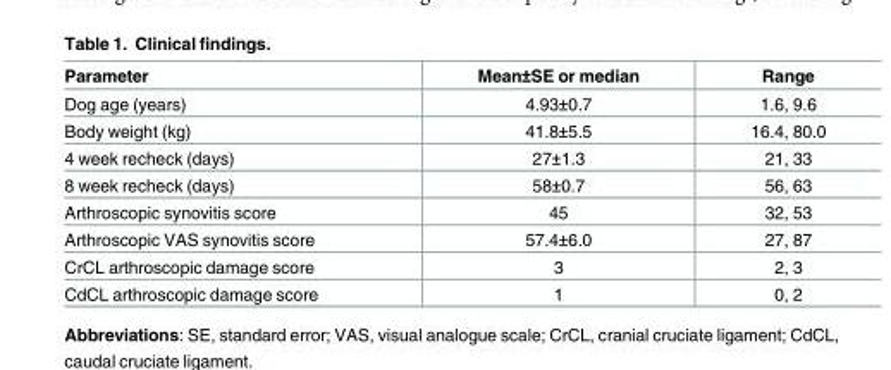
<table><thead><tr><td>Parameter</td><td>Mean±SE or median</td><td>Range</td></tr></thead><tbody><tr><td>Dog age (years)</td><td>4.93±0.7</td><td>1.6, 9.6</td></tr><tr><td>Body weight (kg)</td><td>41.8±5.5</td><td>16.4, 80.0</td></tr><tr><td>4 week recheck (days)</td><td>27±1.3</td><td>21, 33</td></tr><tr><td>8 week recheck (days)</td><td>58±0.7</td><td>56, 63</td></tr><tr><td>Arthroscopic synovitis score</td><td>45</td><td>32, 53</td></tr><tr><td>Arthroscopic VAS synovitis score</td><td>57.4±6.0</td><td>27, 87</td></tr><tr><td>CrCL arthroscopic damage score</td><td>3</td><td>2, 3</td></tr><tr><td>CdCL arthroscopic damage score</td><td>1</td><td>0, 2</td></tr></tbody></table>